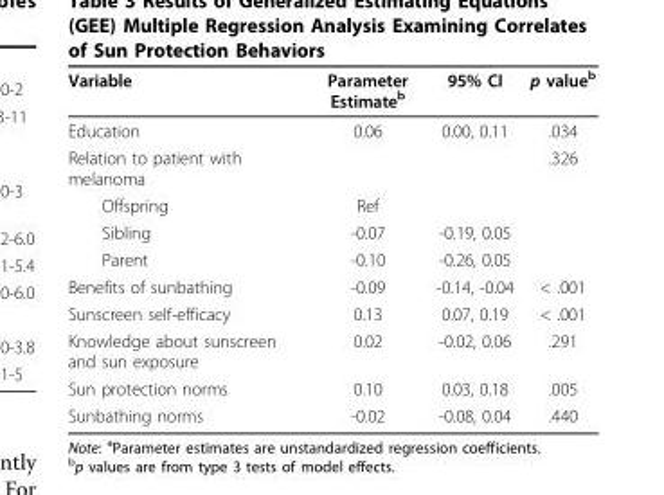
<table><thead><tr><td>Variable</td><td>Parameter Estimateb</td><td>95% CI</td><td>p value<sup>b</sup></td></tr></thead><tbody><tr><td>Education</td><td>0.06</td><td>0.00, 0.11</td><td>.034</td></tr><tr><td>Relation to patient with melanoma</td><td></td><td></td><td>.326</td></tr><tr><td>Offspring</td><td>Ref</td><td></td><td></td></tr><tr><td>Sibling</td><td>-0.07</td><td>-0.19, 0.05</td><td></td></tr><tr><td>Parent</td><td>-0.10</td><td>-0.26, 0.05</td><td></td></tr><tr><td>Benefits of sunbathing</td><td>-0.09</td><td>-0.14, -0.04</td><td>&lt; .001</td></tr><tr><td>Sunscreen self-efficacy</td><td>0.13</td><td>0.07, 0.19</td><td>&lt; .001</td></tr><tr><td>Knowledge about sunscreen and sun exposure</td><td>0.02</td><td>-0.02, 0.06</td><td>.291</td></tr><tr><td>Sun protection norms</td><td>0.10</td><td>0.03, 0.18</td><td>.005</td></tr><tr><td>Sunbathing norms</td><td>-0.02</td><td>-0.08, 0.04</td><td>.440</td></tr></tbody></table>